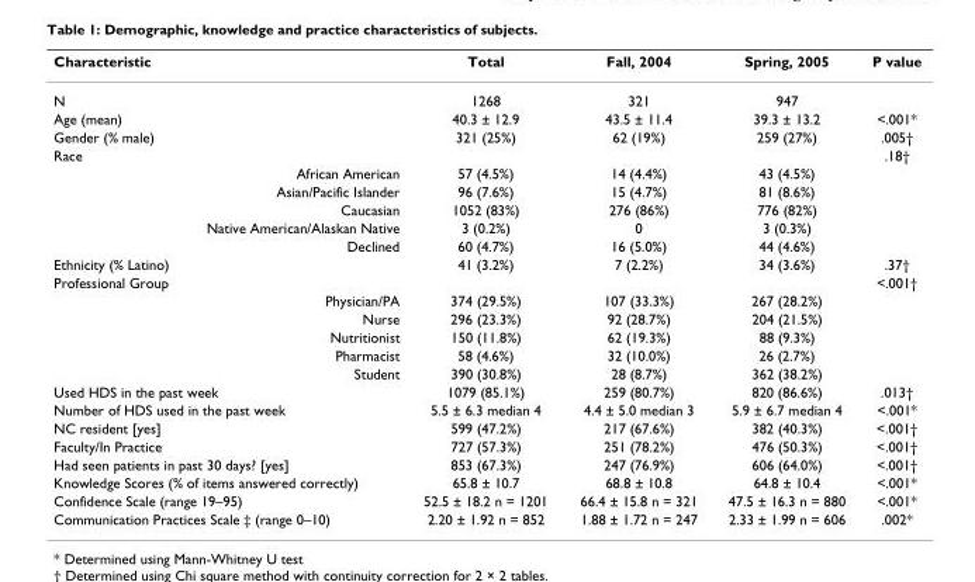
<table><thead><tr><td>Characteristic</td><td>Total</td><td>Fall, 2004</td><td>Spring, 2005</td><td>P value</td></tr></thead><tbody><tr><td>N</td><td>1268</td><td>321</td><td>947</td><td></td></tr><tr><td>Age (mean)</td><td>40.3 ± 12.9</td><td>43.5 ± 11.4</td><td>39.3 ± 13.2</td><td>&lt;.001*</td></tr><tr><td>Gender (% male)</td><td>321 (25%)</td><td>62 (19%)</td><td>259 (27%)</td><td>.005†</td></tr><tr><td>Race</td><td></td><td></td><td></td><td>.18†</td></tr><tr><td>African American</td><td>57 (4.5%)</td><td>14 (4.4%)</td><td>43 (4.5%)</td><td></td></tr><tr><td>Asian/Pacific Islander</td><td>96 (7.6%)</td><td>15 (4.7%)</td><td>81 (8.6%)</td><td></td></tr><tr><td>Caucasian</td><td>1052 (83%)</td><td>276 (86%)</td><td>776 (82%)</td><td></td></tr><tr><td>Native American/Alaskan Native</td><td>3 (0.2%)</td><td>0</td><td>3 (0.3%)</td><td></td></tr><tr><td>Declined</td><td>60 (4.7%)</td><td>16 (5.0%)</td><td>44 (4.6%)</td><td></td></tr><tr><td>Ethnicity (% Latino)</td><td>41 (3.2%)</td><td>7 (2.2%)</td><td>34 (3.6%)</td><td>.37†</td></tr><tr><td>Professional Group</td><td></td><td></td><td></td><td>&lt;.001†</td></tr><tr><td>Physician/PA</td><td>374 (29.5%)</td><td>107 (33.3%)</td><td>267 (28.2%)</td><td></td></tr><tr><td>Nurse</td><td>296 (23.3%)</td><td>92 (28.7%)</td><td>204 (21.5%)</td><td></td></tr><tr><td>Nutritionist</td><td>150 (11.8%)</td><td>62 (19.3%)</td><td>88 (9.3%)</td><td></td></tr><tr><td>Pharmacist</td><td>58 (4.6%)</td><td>32 (10.0%)</td><td>26 (2.7%)</td><td></td></tr><tr><td>Student</td><td>390 (30.8%)</td><td>28 (8.7%)</td><td>362 (38.2%)</td><td></td></tr><tr><td>Used HDS in the past week</td><td>1079 (85.1%)</td><td>259 (80.7%)</td><td>820 (86.6%)</td><td>.013†</td></tr><tr><td>Number of HDS used in the past week</td><td>5.5 ± 6.3 median 4</td><td>4.4 ± 5.0 median 3</td><td>5.9 ± 6.7 median 4</td><td>&lt;.001*</td></tr><tr><td>NC resident [yes]</td><td>599 (47.2%)</td><td>217 (67.6%)</td><td>382 (40.3%)</td><td>&lt;.001†</td></tr><tr><td>Faculty/In Practice</td><td>727 (57.3%)</td><td>251 (78.2%)</td><td>476 (50.3%)</td><td>&lt;.001†</td></tr><tr><td>Had seen patients in past 30 days? [yes]</td><td>853 (67.3%)</td><td>247 (76.9%)</td><td>606 (64.0%)</td><td>&lt;.001†</td></tr><tr><td>Knowledge Scores (% of items answered correctly)</td><td>65.8 ± 10.7</td><td>68.8 ± 10.8</td><td>64.8 ± 10.4</td><td>&lt;.001*</td></tr><tr><td>Confidence Scale (range 19–95)</td><td>52.5 ± 18.2 n = 1201</td><td>66.4 ± 15.8 n = 321</td><td>47.5 ± 16.3 n = 880</td><td>&lt;.001*</td></tr><tr><td>Communication Practices Scale ‡ (range 0–10)</td><td>2.20 ± 1.92 n = 852</td><td>1.88 ± 1.72 n = 247</td><td>2.33 ± 1.99 n = 606</td><td>.002*</td></tr></tbody></table>